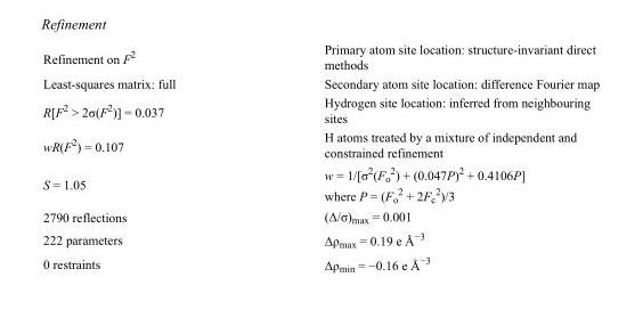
<table><tbody><tr><td>Refinement on F<sup>2</sup></td><td>Primary atom site location: structure-invariant direct methods</td></tr><tr><td>Least-squares matrix: full</td><td>Secondary atom site location: difference Fourier map</td></tr><tr><td>R[F<sup>2</sup> &gt; 2σ(F<sup>2</sup>)] = 0.037</td><td>Hydrogen site location: inferred from neighbouring sites</td></tr><tr><td>wR(F<sup>2</sup>) = 0.107</td><td>H atoms treated by a mixture of independent and constrained refinement</td></tr><tr><td>S = 1.05</td><td>w = 1/[σ<sup>2</sup>(F<sub>o</sub> <sup>2</sup>) + (0.047P)<sup>2</sup> + 0.4106P] where P = (F<sub>o</sub> <sup>2</sup> + 2F<sub>c</sub> <sup>2</sup>)/3</td></tr><tr><td>2790 reflections</td><td>(Δ/σ)<sub>max</sub> = 0.001</td></tr><tr><td>222 parameters</td><td>Δρ<sub>max</sub> = 0.19 e Å<sup>−3</sup></td></tr><tr><td>0 restraints</td><td>Δρ<sub>min</sub> = −0.16 e Å<sup>−3</sup></td></tr></tbody></table>